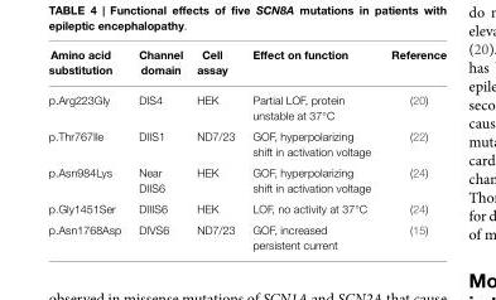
<table><thead><tr><td>Amino acid substitution</td><td>Channel domain</td><td>Cell assay</td><td>Effect on function</td><td>Reference</td></tr></thead><tbody><tr><td>p.Arg223Gly</td><td>DIS4</td><td>HEK</td><td>Partial LOF, protein unstable at 37°C</td><td>(20)</td></tr><tr><td>p.Thr767Ile</td><td>DIIS1</td><td>ND7/23</td><td>GOF, hyperpolarizing shift in activation voltage</td><td>(22)</td></tr><tr><td>p.Asn984Lys</td><td>Near DIIS6</td><td>HEK</td><td>GOF, hyperpolarizing shift in activation voltage</td><td>(24)</td></tr><tr><td>p.Gly1451Ser</td><td>DIIIS6</td><td>HEK</td><td>LOF, no activity at 37°C</td><td>(24)</td></tr><tr><td>p.Asn1768Asp</td><td>DIVS6</td><td>ND7/23</td><td>GOF, increased persistent current</td><td>(15)</td></tr></tbody></table>